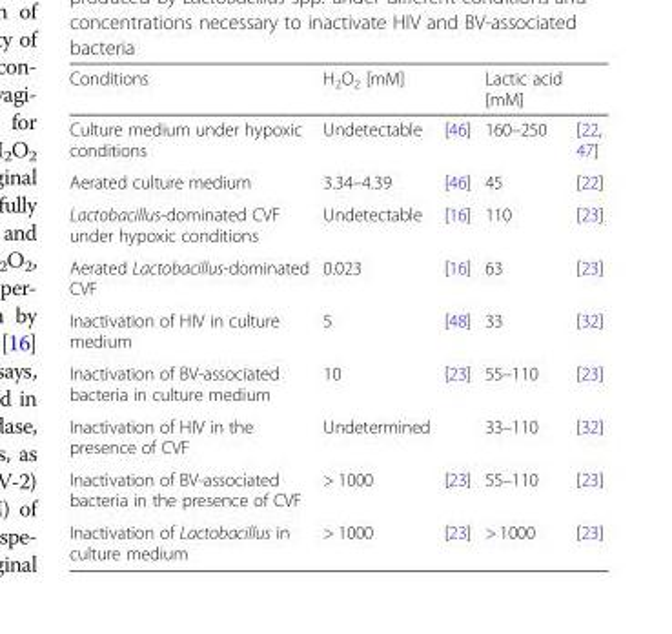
<table><thead><tr><td>Conditions</td><td>H<sub>2</sub>O<sub>2</sub> [mM]</td><td></td><td>Lactic acid [mM]</td><td></td></tr></thead><tbody><tr><td>Culture medium under hypoxic conditions</td><td>Undetectable</td><td>[46]</td><td>160–250</td><td>[22, 47]</td></tr><tr><td>Aerated culture medium</td><td>3.34–4.39</td><td>[46]</td><td>45</td><td>[22]</td></tr><tr><td>Lactobacillus-dominated CVF under hypoxic conditions</td><td>Undetectable</td><td>[16]</td><td>110</td><td>[23]</td></tr><tr><td>Aerated Lactobacillus-dominated CVF</td><td>0.023</td><td>[16]</td><td>63</td><td>[23]</td></tr><tr><td>Inactivation of HIV in culture medium</td><td>5</td><td>[48]</td><td>33</td><td>[32]</td></tr><tr><td>Inactivation of BV-associated bacteria in culture medium</td><td>10</td><td>[23]</td><td>55–110</td><td>[23]</td></tr><tr><td>Inactivation of HIV in the presence of CVF</td><td>Undetermined</td><td></td><td>33–110</td><td>[32]</td></tr><tr><td>Inactivation of BV-associated bacteria in the presence of CVF</td><td>&gt; 1000</td><td>[23]</td><td>55–110</td><td>[23]</td></tr><tr><td>Inactivation of Lactobacillus in culture medium</td><td>&gt; 1000</td><td>[23]</td><td>&gt; 1000</td><td>[23]</td></tr></tbody></table>